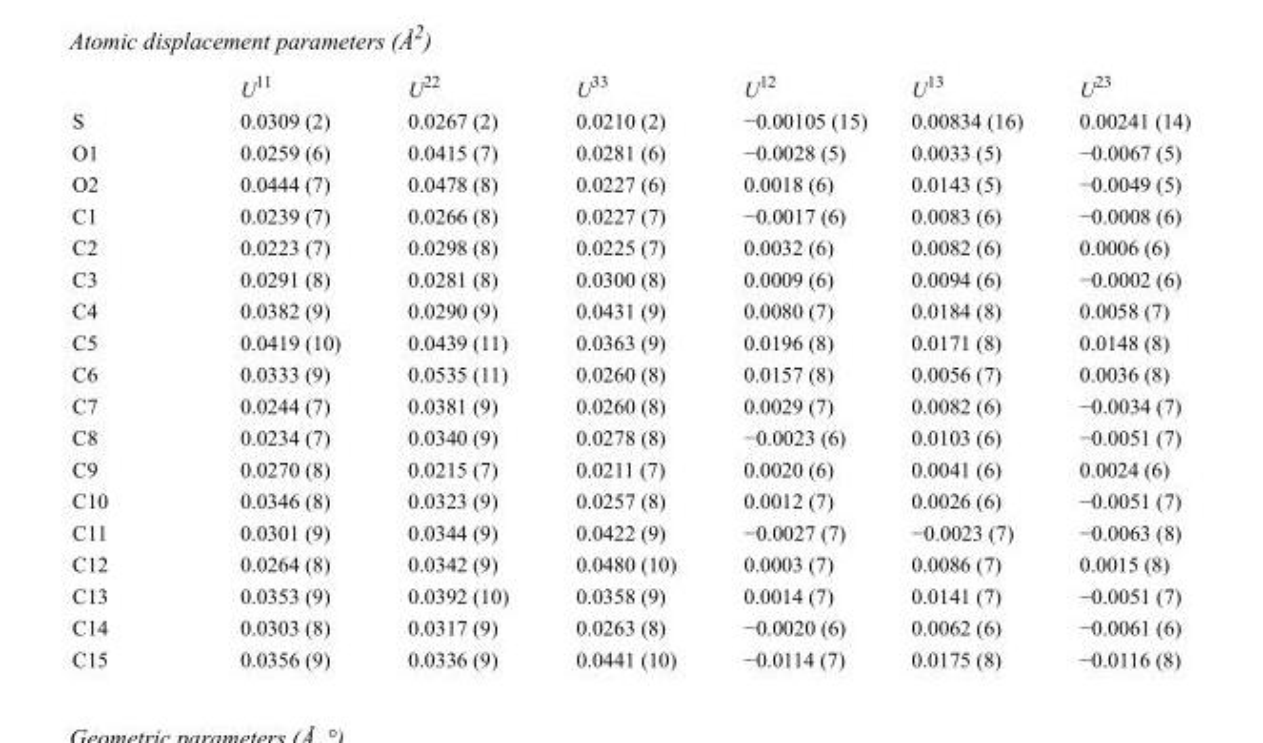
<table><thead><tr><td></td><td>U<sup>11</sup></td><td>U<sup>22</sup></td><td>U<sup>33</sup></td><td>U<sup>12</sup></td><td>U<sup>13</sup></td><td>U<sup>23</sup></td></tr></thead><tbody><tr><td>S</td><td>0.0309 (2)</td><td>0.0267 (2)</td><td>0.0210 (2)</td><td>−0.00105 (15)</td><td>0.00834 (16)</td><td>0.00241 (14)</td></tr><tr><td>O1</td><td>0.0259 (6)</td><td>0.0415 (7)</td><td>0.0281 (6)</td><td>−0.0028 (5)</td><td>0.0033 (5)</td><td>−0.0067 (5)</td></tr><tr><td>O2</td><td>0.0444 (7)</td><td>0.0478 (8)</td><td>0.0227 (6)</td><td>0.0018 (6)</td><td>0.0143 (5)</td><td>−0.0049 (5)</td></tr><tr><td>C1</td><td>0.0239 (7)</td><td>0.0266 (8)</td><td>0.0227 (7)</td><td>−0.0017 (6)</td><td>0.0083 (6)</td><td>−0.0008 (6)</td></tr><tr><td>C2</td><td>0.0223 (7)</td><td>0.0298 (8)</td><td>0.0225 (7)</td><td>0.0032 (6)</td><td>0.0082 (6)</td><td>0.0006 (6)</td></tr><tr><td>C3</td><td>0.0291 (8)</td><td>0.0281 (8)</td><td>0.0300 (8)</td><td>0.0009 (6)</td><td>0.0094 (6)</td><td>−0.0002 (6)</td></tr><tr><td>C4</td><td>0.0382 (9)</td><td>0.0290 (9)</td><td>0.0431 (9)</td><td>0.0080 (7)</td><td>0.0184 (8)</td><td>0.0058 (7)</td></tr><tr><td>C5</td><td>0.0419 (10)</td><td>0.0439 (11)</td><td>0.0363 (9)</td><td>0.0196 (8)</td><td>0.0171 (8)</td><td>0.0148 (8)</td></tr><tr><td>C6</td><td>0.0333 (9)</td><td>0.0535 (11)</td><td>0.0260 (8)</td><td>0.0157 (8)</td><td>0.0056 (7)</td><td>0.0036 (8)</td></tr><tr><td>C7</td><td>0.0244 (7)</td><td>0.0381 (9)</td><td>0.0260 (8)</td><td>0.0029 (7)</td><td>0.0082 (6)</td><td>−0.0034 (7)</td></tr><tr><td>C8</td><td>0.0234 (7)</td><td>0.0340 (9)</td><td>0.0278 (8)</td><td>−0.0023 (6)</td><td>0.0103 (6)</td><td>−0.0051 (7)</td></tr><tr><td>C9</td><td>0.0270 (8)</td><td>0.0215 (7)</td><td>0.0211 (7)</td><td>0.0020 (6)</td><td>0.0041 (6)</td><td>0.0024 (6)</td></tr><tr><td>C10</td><td>0.0346 (8)</td><td>0.0323 (9)</td><td>0.0257 (8)</td><td>0.0012 (7)</td><td>0.0026 (6)</td><td>−0.0051 (7)</td></tr><tr><td>C11</td><td>0.0301 (9)</td><td>0.0344 (9)</td><td>0.0422 (9)</td><td>−0.0027 (7)</td><td>−0.0023 (7)</td><td>−0.0063 (8)</td></tr><tr><td>C12</td><td>0.0264 (8)</td><td>0.0342 (9)</td><td>0.0480 (10)</td><td>0.0003 (7)</td><td>0.0086 (7)</td><td>0.0015 (8)</td></tr><tr><td>C13</td><td>0.0353 (9)</td><td>0.0392 (10)</td><td>0.0358 (9)</td><td>0.0014 (7)</td><td>0.0141 (7)</td><td>−0.0051 (7)</td></tr><tr><td>C14</td><td>0.0303 (8)</td><td>0.0317 (9)</td><td>0.0263 (8)</td><td>−0.0020 (6)</td><td>0.0062 (6)</td><td>−0.0061 (6)</td></tr><tr><td>C15</td><td>0.0356 (9)</td><td>0.0336 (9)</td><td>0.0441 (10)</td><td>−0.0114 (7)</td><td>0.0175 (8)</td><td>−0.0116 (8)</td></tr></tbody></table>